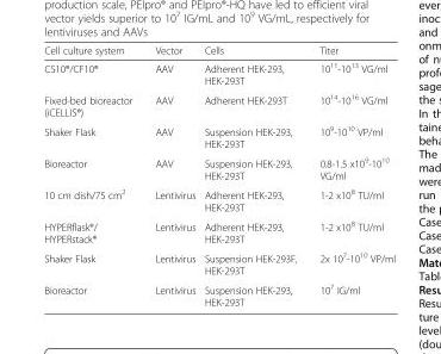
<table><thead><tr><td>Cell culture system</td><td>Vector</td><td>Cells</td><td>Titer</td></tr></thead><tbody><tr><td>CS10®/CF10®</td><td>AAV</td><td>Adherent HEK-293, HEK-293T</td><td>10<sup>11</sup>-10<sup>13</sup> VG/ml</td></tr><tr><td>Fixed-bed bioreactor (iCELLIS®)</td><td>AAV</td><td>Adherent HEK-293T</td><td>10<sup>14</sup>-10<sup>16</sup> VG/ml</td></tr><tr><td>Shaker Flask</td><td>AAV</td><td>Suspension HEK-293, HEK-293T</td><td>10<sup>9</sup>-10<sup>10</sup> VP/ml</td></tr><tr><td>Bioreactor</td><td>AAV</td><td>Suspension HEK-293, HEK-293T</td><td>0.8-1.5 x10<sup>9</sup>-10<sup>10</sup> VG/ml</td></tr><tr><td>10 cm dish/75 cm<sup>2</sup></td><td>Lentivirus</td><td>Adherent HEK-293, HEK-293T</td><td>1-2 x10<sup>8</sup> TU/ml</td></tr><tr><td>HYPERflask®/ HYPERstack®</td><td>Lentivirus</td><td>Adherent HEK-293, HEK-293T</td><td>1-2 x10<sup>8</sup> TU/ml</td></tr><tr><td>Shaker Flask</td><td>Lentivirus</td><td>Suspension HEK-293F, HEK-293T</td><td>2x 10<sup>7</sup>-10<sup>10</sup> VP/ml</td></tr><tr><td>Bioreactor</td><td>Lentivirus</td><td>Suspension HEK-293, HEK-293T</td><td>10<sup>7</sup> IG/ml</td></tr></tbody></table>